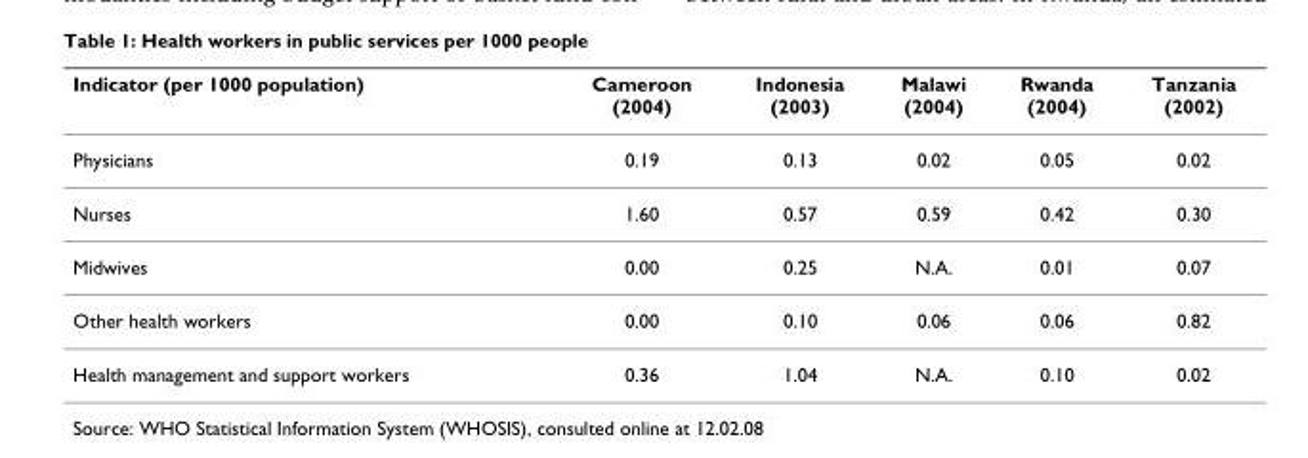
<table><thead><tr><td>Indicator (per 1000 population)</td><td>Cameroon (2004)</td><td>Indonesia (2003)</td><td>Malawi (2004)</td><td>Rwanda (2004)</td><td>Tanzania (2002)</td></tr></thead><tbody><tr><td>Physicians</td><td>0.19</td><td>0.13</td><td>0.02</td><td>0.05</td><td>0.02</td></tr><tr><td>Nurses</td><td>1.60</td><td>0.57</td><td>0.59</td><td>0.42</td><td>0.30</td></tr><tr><td>Midwives</td><td>0.00</td><td>0.25</td><td>N.A.</td><td>0.01</td><td>0.07</td></tr><tr><td>Other health workers</td><td>0.00</td><td>0.10</td><td>0.06</td><td>0.06</td><td>0.82</td></tr><tr><td>Health management and support workers</td><td>0.36</td><td>1.04</td><td>N.A.</td><td>0.10</td><td>0.02</td></tr></tbody></table>